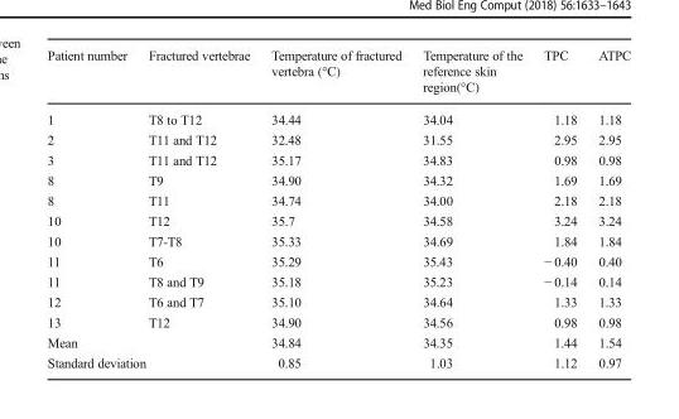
<table><thead><tr><td>Patient number</td><td>Fractured vertebrae</td><td>Temperature of fractured vertebra (°C)</td><td>Temperature of the reference skin region(°C)</td><td>TPC</td><td>ATPC</td></tr></thead><tbody><tr><td>1</td><td>T8 to T12</td><td>34.44</td><td>34.04</td><td>1.18</td><td>1.18</td></tr><tr><td>2</td><td>T11 and T12</td><td>32.48</td><td>31.55</td><td>2.95</td><td>2.95</td></tr><tr><td>3</td><td>T11 and T12</td><td>35.17</td><td>34.83</td><td>0.98</td><td>0.98</td></tr><tr><td>8</td><td>T9</td><td>34.90</td><td>34.32</td><td>1.69</td><td>1.69</td></tr><tr><td>8</td><td>T11</td><td>34.74</td><td>34.00</td><td>2.18</td><td>2.18</td></tr><tr><td>10</td><td>T12</td><td>35.7</td><td>34.58</td><td>3.24</td><td>3.24</td></tr><tr><td>10</td><td>T7-T8</td><td>35.33</td><td>34.69</td><td>1.84</td><td>1.84</td></tr><tr><td>11</td><td>T6</td><td>35.29</td><td>35.43</td><td>− 0.40</td><td>0.40</td></tr><tr><td>11</td><td>T8 and T9</td><td>35.18</td><td>35.23</td><td>− 0.14</td><td>0.14</td></tr><tr><td>12</td><td>T6 and T7</td><td>35.10</td><td>34.64</td><td>1.33</td><td>1.33</td></tr><tr><td>13</td><td>T12</td><td>34.90</td><td>34.56</td><td>0.98</td><td>0.98</td></tr><tr><td colspan="2">Mean</td><td>34.84</td><td>34.35</td><td>1.44</td><td>1.54</td></tr><tr><td colspan="2">Standard deviation</td><td>0.85</td><td>1.03</td><td>1.12</td><td>0.97</td></tr></tbody></table>